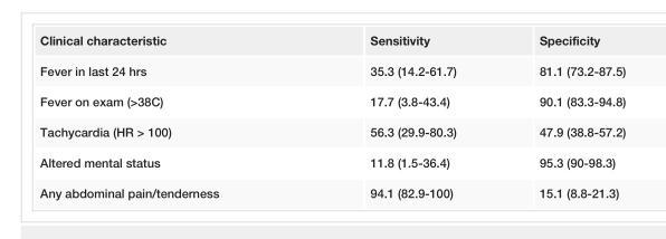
<table><tbody><tr><td>Clinical characteristic</td><td>Sensitivity</td><td>Specificity</td></tr><tr><td>Fever in last 24 hrs</td><td>35.3 (14.2-61.7)</td><td>81.1 (73.2-87.5)</td></tr><tr><td>Fever on exam (&gt;38C)</td><td>17.7 (3.8-43.4)</td><td>90.1 (83.3-94.8)</td></tr><tr><td>Tachycardia (HR &gt; 100)</td><td>56.3 (29.9-80.3)</td><td>47.9 (38.8-57.2)</td></tr><tr><td>Altered mental status</td><td>11.8 (1.5-36.4)</td><td>95.3 (90-98.3)</td></tr><tr><td>Any abdominal pain/tenderness</td><td>94.1 (82.9-100)</td><td>15.1 (8.8-21.3)</td></tr></tbody></table>